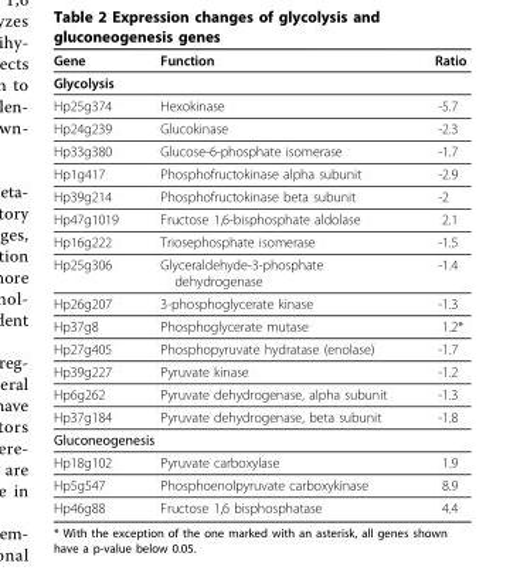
<table><thead><tr><td>Gene</td><td>Function</td><td>Ratio</td></tr></thead><tbody><tr><td colspan="3">Glycolysis</td></tr><tr><td>Hp25g374</td><td>Hexokinase</td><td>-5.7</td></tr><tr><td>Hp24g239</td><td>Glucokinase</td><td>-2.3</td></tr><tr><td>Hp33g380</td><td>Glucose-6-phosphate isomerase</td><td>-1.7</td></tr><tr><td>Hp1g417</td><td>Phosphofructokinase alpha subunit</td><td>-2.9</td></tr><tr><td>Hp39g214</td><td>Phosphofructokinase beta subunit</td><td>-2</td></tr><tr><td>Hp47g1019</td><td>Fructose 1,6-bisphosphate aldolase</td><td>2.1</td></tr><tr><td>Hp16g222</td><td>Triosephosphate isomerase</td><td>-1.5</td></tr><tr><td>Hp25g306</td><td>Glyceraldehyde-3-phosphate dehydrogenase</td><td>-1.4</td></tr><tr><td>Hp26g207</td><td>3-phosphoglycerate kinase</td><td>-1.3</td></tr><tr><td>Hp37g8</td><td>Phosphoglycerate mutase</td><td>1.2*</td></tr><tr><td>Hp27g405</td><td>Phosphopyruvate hydratase (enolase)</td><td>-1.7</td></tr><tr><td>Hp39g227</td><td>Pyruvate kinase</td><td>-1.2</td></tr><tr><td>Hp6g262</td><td>Pyruvate dehydrogenase, alpha subunit</td><td>-1.3</td></tr><tr><td>Hp37g184</td><td>Pyruvate dehydrogenase, beta subunit</td><td>-1.8</td></tr><tr><td colspan="3">Gluconeogenesis</td></tr><tr><td>Hp18g102</td><td>Pyruvate carboxylase</td><td>1.9</td></tr><tr><td>Hp5g547</td><td>Phosphoenolpyruvate carboxykinase</td><td>8.9</td></tr><tr><td>Hp46g88</td><td>Fructose 1,6 bisphosphatase</td><td>4.4</td></tr></tbody></table>